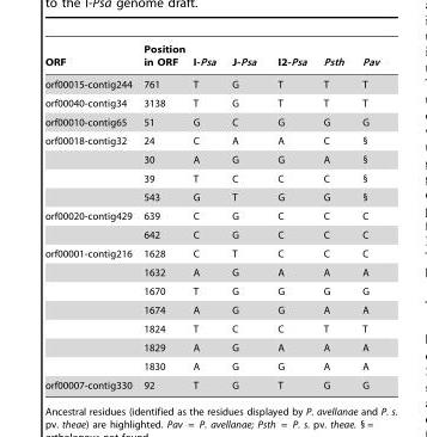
<table><thead><tr><td>ORF</td><td>Position in ORF</td><td>I-Psa</td><td>J-Psa</td><td>I2-Psa</td><td>Psth</td><td>Pav</td></tr></thead><tbody><tr><td>orf00015-contig244</td><td>761</td><td>T</td><td>G</td><td>T</td><td>T</td><td>T</td></tr><tr><td>orf00040-contig34</td><td>3138</td><td>T</td><td>G</td><td>T</td><td>T</td><td>T</td></tr><tr><td>orf00010-contig65</td><td>51</td><td>G</td><td>C</td><td>G</td><td>G</td><td>G</td></tr><tr><td rowspan="4">orf00018-contig32</td><td>24</td><td>C</td><td>A</td><td>A</td><td>C</td><td>§</td></tr><tr><td>30</td><td>A</td><td>G</td><td>G</td><td>A</td><td>§</td></tr><tr><td>39</td><td>T</td><td>C</td><td>C</td><td>C</td><td>§</td></tr><tr><td>543</td><td>G</td><td>T</td><td>G</td><td>G</td><td>§</td></tr><tr><td rowspan="2">orf00020-contig429</td><td>639</td><td>C</td><td>G</td><td>C</td><td>C</td><td>C</td></tr><tr><td>642</td><td>C</td><td>G</td><td>C</td><td>C</td><td>C</td></tr><tr><td rowspan="7">orf00001-contig216</td><td>1628</td><td>C</td><td>T</td><td>C</td><td>C</td><td>C</td></tr><tr><td>1632</td><td>A</td><td>G</td><td>A</td><td>A</td><td>A</td></tr><tr><td>1670</td><td>T</td><td>G</td><td>G</td><td>G</td><td>G</td></tr><tr><td>1674</td><td>A</td><td>G</td><td>G</td><td>A</td><td>A</td></tr><tr><td>1824</td><td>T</td><td>C</td><td>C</td><td>T</td><td>T</td></tr><tr><td>1829</td><td>A</td><td>G</td><td>A</td><td>A</td><td>A</td></tr><tr><td>1830</td><td>A</td><td>G</td><td>G</td><td>A</td><td>A</td></tr><tr><td>orf00007-contig330</td><td>92</td><td>T</td><td>G</td><td>T</td><td>G</td><td>G</td></tr></tbody></table>